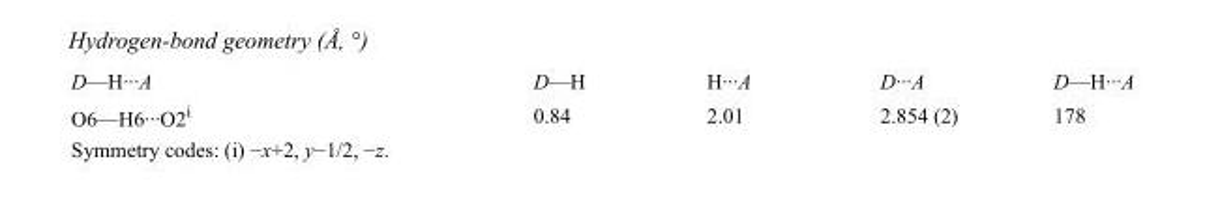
<table><tbody><tr><td>D—H···A</td><td>D—H</td><td>H···A</td><td>D···A</td><td>D—H···A</td></tr><tr><td>O6—H6···O2<sup>i</sup></td><td>0.84</td><td>2.01</td><td>2.854 (2)</td><td>178</td></tr></tbody></table>